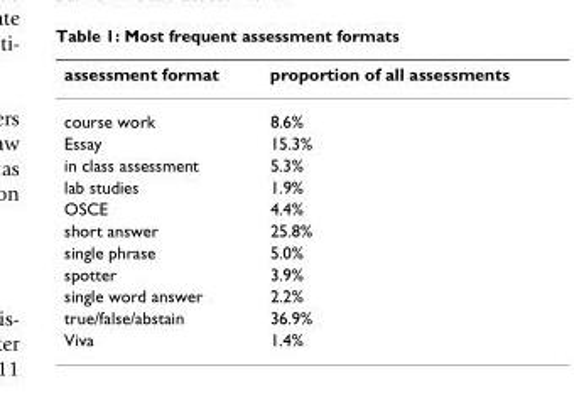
<table><thead><tr><td>assessment format</td><td>proportion of all assessments</td></tr></thead><tbody><tr><td>course work</td><td>8.6%</td></tr><tr><td>Essay</td><td>15.3%</td></tr><tr><td>in class assessment</td><td>5.3%</td></tr><tr><td>lab studies</td><td>1.9%</td></tr><tr><td>OSCE</td><td>4.4%</td></tr><tr><td>short answer</td><td>25.8%</td></tr><tr><td>single phrase</td><td>5.0%</td></tr><tr><td>spotter</td><td>3.9%</td></tr><tr><td>single word answer</td><td>2.2%</td></tr><tr><td>true/false/abstain</td><td>36.9%</td></tr><tr><td>Viva</td><td>1.4%</td></tr></tbody></table>